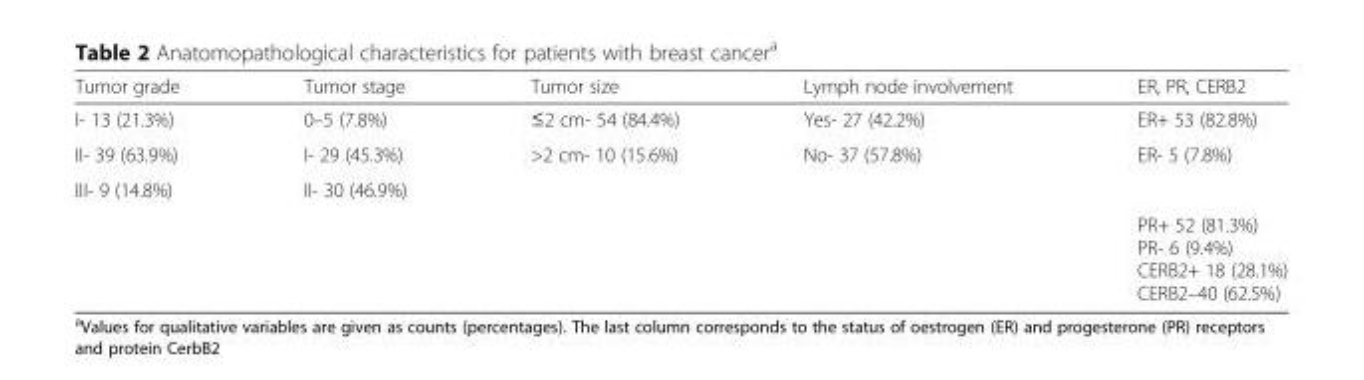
<table><thead><tr><td>Tumor grade</td><td>Tumor stage</td><td>Tumor size</td><td>Lymph node involvement</td><td>ER, PR, CERB2</td></tr></thead><tbody><tr><td>I- 13 (21.3%)</td><td>0–5 (7.8%)</td><td>≤2 cm- 54 (84.4%)</td><td>Yes- 27 (42.2%)</td><td>ER+ 53 (82.8%)</td></tr><tr><td>II- 39 (63.9%)</td><td>I- 29 (45.3%)</td><td>&gt;2 cm- 10 (15.6%)</td><td>No- 37 (57.8%)</td><td>ER- 5 (7.8%)</td></tr><tr><td rowspan="2">III- 9 (14.8%)</td><td>II- 30 (46.9%)</td><td></td><td></td><td></td></tr><tr><td></td><td></td><td></td><td>PR+ 52 (81.3%) PR- 6 (9.4%) CERB2+ 18 (28.1%) CERB2–40 (62.5%)</td></tr></tbody></table>